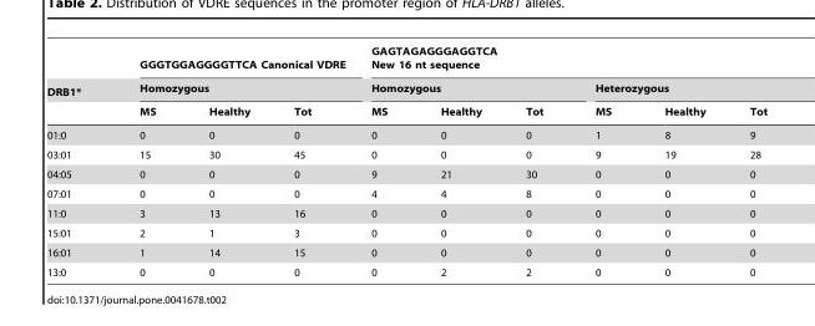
<table><thead><tr><td rowspan="3">DRB1*</td><td rowspan="2" colspan="3">GGGTGGAGGGGTTCA Canonical VDRE Homozygous</td><td colspan="6">GAGTAGAGGGAGGTCA New 16 nt sequence</td></tr><tr><td colspan="3">Homozygous</td><td colspan="3">Heterozygous</td></tr><tr><td>MS</td><td>Healthy</td><td>Tot</td><td>MS</td><td>Healthy</td><td>Tot</td><td>MS</td><td>Healthy</td><td>Tot</td></tr></thead><tbody><tr><td>01:0</td><td>0</td><td>0</td><td>0</td><td>0</td><td>0</td><td>0</td><td>1</td><td>8</td><td>9</td></tr><tr><td>03:01</td><td>15</td><td>30</td><td>45</td><td>0</td><td>0</td><td>0</td><td>9</td><td>19</td><td>28</td></tr><tr><td>04:05</td><td>0</td><td>0</td><td>0</td><td>9</td><td>21</td><td>30</td><td>0</td><td>0</td><td>0</td></tr><tr><td>07:01</td><td>0</td><td>0</td><td>0</td><td>4</td><td>4</td><td>8</td><td>0</td><td>0</td><td>0</td></tr><tr><td>11:0</td><td>3</td><td>13</td><td>16</td><td>0</td><td>0</td><td>0</td><td>0</td><td>0</td><td>0</td></tr><tr><td>15:01</td><td>2</td><td>1</td><td>3</td><td>0</td><td>0</td><td>0</td><td>0</td><td>0</td><td>0</td></tr><tr><td>16:01</td><td>1</td><td>14</td><td>15</td><td>0</td><td>0</td><td>0</td><td>0</td><td>0</td><td>0</td></tr><tr><td>13:0</td><td>0</td><td>0</td><td>0</td><td>0</td><td>2</td><td>2</td><td>0</td><td>0</td><td>0</td></tr></tbody></table>